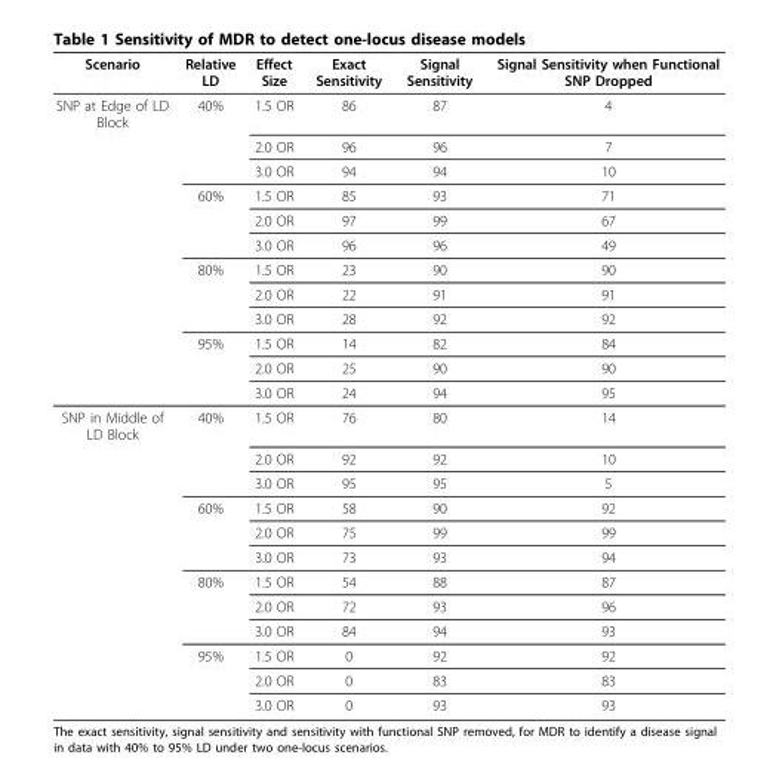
<table><thead><tr><td>Scenario</td><td>Relative LD</td><td>Effect Size</td><td>Exact Sensitivity</td><td>Signal Sensitivity</td><td>Signal Sensitivity when Functional SNP Dropped</td></tr></thead><tbody><tr><td rowspan="12">SNP at Edge of LD Block</td><td>40%</td><td>1.5 OR</td><td>86</td><td>87</td><td>4</td></tr><tr><td></td><td>2.0 OR</td><td>96</td><td>96</td><td>7</td></tr><tr><td></td><td>3.0 OR</td><td>94</td><td>94</td><td>10</td></tr><tr><td>60%</td><td>1.5 OR</td><td>85</td><td>93</td><td>71</td></tr><tr><td></td><td>2.0 OR</td><td>97</td><td>99</td><td>67</td></tr><tr><td></td><td>3.0 OR</td><td>96</td><td>96</td><td>49</td></tr><tr><td>80%</td><td>1.5 OR</td><td>23</td><td>90</td><td>90</td></tr><tr><td></td><td>2.0 OR</td><td>22</td><td>91</td><td>91</td></tr><tr><td></td><td>3.0 OR</td><td>28</td><td>92</td><td>92</td></tr><tr><td>95%</td><td>1.5 OR</td><td>14</td><td>82</td><td>84</td></tr><tr><td></td><td>2.0 OR</td><td>25</td><td>90</td><td>90</td></tr><tr><td></td><td>3.0 OR</td><td>24</td><td>94</td><td>95</td></tr><tr><td rowspan="12">SNP in Middle of LD Block</td><td>40%</td><td>1.5 OR</td><td>76</td><td>80</td><td>14</td></tr><tr><td></td><td>2.0 OR</td><td>92</td><td>92</td><td>10</td></tr><tr><td></td><td>3.0 OR</td><td>95</td><td>95</td><td>5</td></tr><tr><td>60%</td><td>1.5 OR</td><td>58</td><td>90</td><td>92</td></tr><tr><td></td><td>2.0 OR</td><td>75</td><td>99</td><td>99</td></tr><tr><td></td><td>3.0 OR</td><td>73</td><td>93</td><td>94</td></tr><tr><td>80%</td><td>1.5 OR</td><td>54</td><td>88</td><td>87</td></tr><tr><td></td><td>2.0 OR</td><td>72</td><td>93</td><td>96</td></tr><tr><td></td><td>3.0 OR</td><td>84</td><td>94</td><td>93</td></tr><tr><td>95%</td><td>1.5 OR</td><td>0</td><td>92</td><td>92</td></tr><tr><td></td><td>2.0 OR</td><td>0</td><td>83</td><td>83</td></tr><tr><td></td><td>3.0 OR</td><td>0</td><td>93</td><td>93</td></tr></tbody></table>